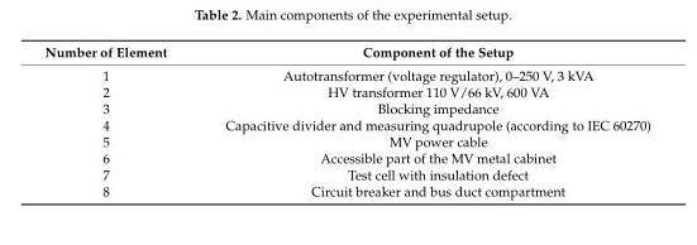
<table><thead><tr><td>Number of Element</td><td>Component of the Setup</td></tr></thead><tbody><tr><td>1</td><td>Autotransformer (voltage regulator), 0–250 V, 3 kVA</td></tr><tr><td>2</td><td>HV transformer 110 V/66 kV, 600 VA</td></tr><tr><td>3</td><td>Blocking impedance</td></tr><tr><td>4</td><td>Capacitive divider and measuring quadrupole (according to IEC 60270)</td></tr><tr><td>5</td><td>MV power cable</td></tr><tr><td>6</td><td>Accessible part of the MV metal cabinet</td></tr><tr><td>7</td><td>Test cell with insulation defect</td></tr><tr><td>8</td><td>Circuit breaker and bus duct compartment</td></tr></tbody></table>